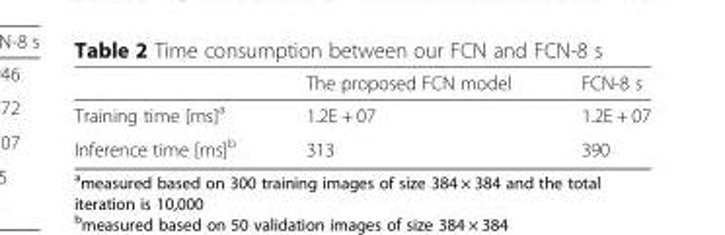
<table><thead><tr><td></td><td>The proposed FCN model</td><td>FCN-8 s</td></tr></thead><tbody><tr><td>Training time [ms]<sup>a</sup></td><td>1.2E + 07</td><td>1.2E + 07</td></tr><tr><td>Inference time [ms]<sup>b</sup></td><td>313</td><td>390</td></tr></tbody></table>